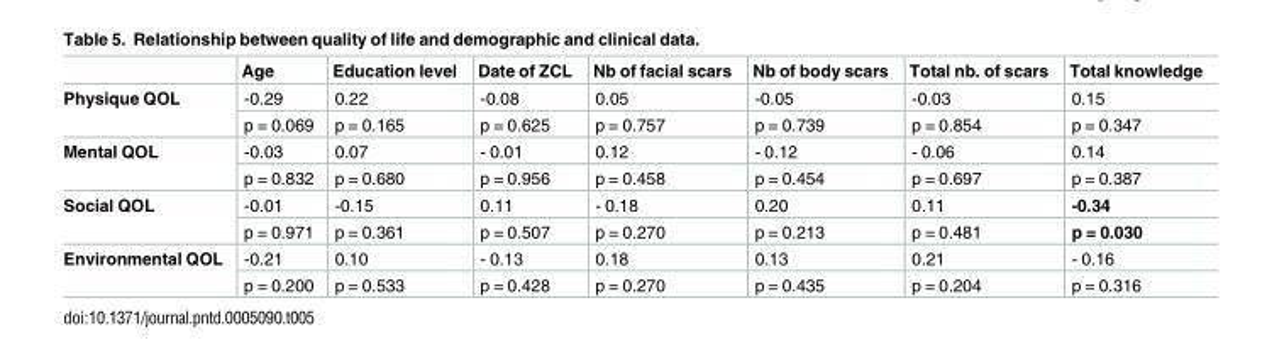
<table><thead><tr><td></td><td>Age</td><td>Education level</td><td>Date of ZCL</td><td>Nb of facial scars</td><td>Nb of body scars</td><td>Total nb. of scars</td><td>Total knowledge</td></tr></thead><tbody><tr><td rowspan="2">Physique QOL</td><td>-0.29</td><td>0.22</td><td>-0.08</td><td>0.05</td><td>-0.05</td><td>-0.03</td><td>0.15</td></tr><tr><td>p = 0.069</td><td>p = 0.165</td><td>p = 0.625</td><td>p = 0.757</td><td>p = 0.739</td><td>p = 0.854</td><td>p = 0.347</td></tr><tr><td rowspan="2">Mental QOL</td><td>-0.03</td><td>0.07</td><td>- 0.01</td><td>0.12</td><td>- 0.12</td><td>- 0.06</td><td>0.14</td></tr><tr><td>p = 0.832</td><td>p = 0.680</td><td>p = 0.956</td><td>p = 0.458</td><td>p = 0.454</td><td>p = 0.697</td><td>p = 0.387</td></tr><tr><td rowspan="2">Social QOL</td><td>-0.01</td><td>-0.15</td><td>0.11</td><td>- 0.18</td><td>0.20</td><td>0.11</td><td>-0.34</td></tr><tr><td>p = 0.971</td><td>p = 0.361</td><td>p = 0.507</td><td>p = 0.270</td><td>p = 0.213</td><td>p = 0.481</td><td>p = 0.030</td></tr><tr><td rowspan="2">Environmental QOL</td><td>-0.21</td><td>0.10</td><td>- 0.13</td><td>0.18</td><td>0.13</td><td>0.21</td><td>- 0.16</td></tr><tr><td>p = 0.200</td><td>p = 0.533</td><td>p = 0.428</td><td>p = 0.270</td><td>p = 0.435</td><td>p = 0.204</td><td>p = 0.316</td></tr></tbody></table>